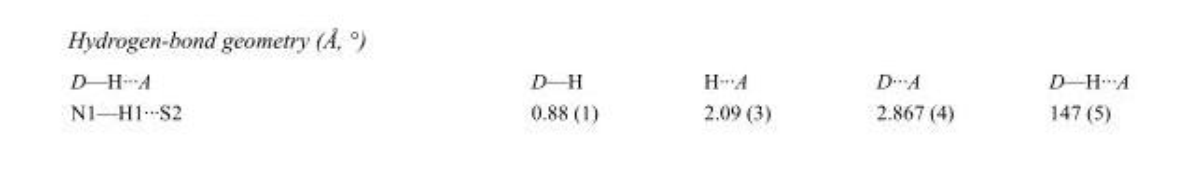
<table><tbody><tr><td>D—H···A</td><td>D—H</td><td>H···A</td><td>D···A</td><td>D—H···A</td></tr><tr><td>N1—H1···S2</td><td>0.88 (1)</td><td>2.09 (3)</td><td>2.867 (4)</td><td>147 (5)</td></tr></tbody></table>